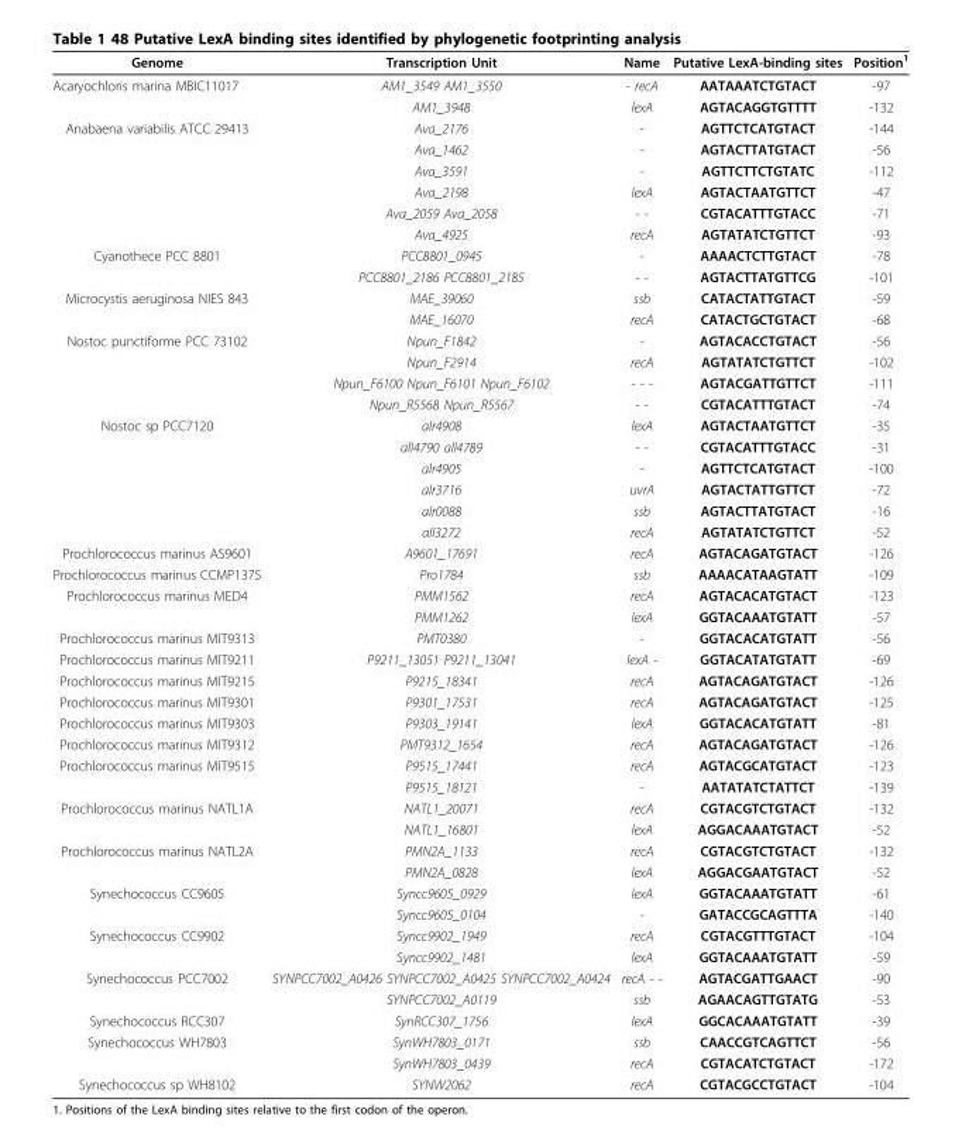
<table><thead><tr><td>Genome</td><td>Transcription Unit</td><td>Name</td><td>Putative LexA-binding sites</td><td>Position<sup>1</sup></td></tr></thead><tbody><tr><td rowspan="2">Acaryochloris marina MBIC11017</td><td>AM1_3549 AM1_3550</td><td>- recA</td><td>AATAAATCTGTACT</td><td>-97</td></tr><tr><td>AM1_3948</td><td>lexA</td><td>AGTACAGGTGTTTT</td><td>-132</td></tr><tr><td rowspan="6">Anabaena variabilis ATCC 29413</td><td>Ava_2176</td><td>-</td><td>AGTTCTCATGTACT</td><td>-144</td></tr><tr><td>Ava_1462</td><td>-</td><td>AGTACTTATGTACT</td><td>-56</td></tr><tr><td>Ava_3591</td><td>-</td><td>AGTTCTTCTGTATC</td><td>-112</td></tr><tr><td>Ava_2198</td><td>lexA</td><td>AGTACTAATGTTCT</td><td>-47</td></tr><tr><td>Ava_2059 Ava_2058</td><td>- -</td><td>CGTACATTTGTACC</td><td>-71</td></tr><tr><td>Ava_4925</td><td>recA</td><td>AGTATATCTGTTCT</td><td>-93</td></tr><tr><td rowspan="2">Cyanothece PCC 8801</td><td>PCC8801_0945</td><td>-</td><td>AAAACTCTTGTACT</td><td>-78</td></tr><tr><td>PCC8801_2186 PCC8801_2185</td><td>- -</td><td>AGTACTTATGTTCG</td><td>-101</td></tr><tr><td rowspan="2">Microcystis aeruginosa NIES 843</td><td>MAE_39060</td><td>ssb</td><td>CATACTATTGTACT</td><td>-59</td></tr><tr><td>MAE_16070</td><td>recA</td><td>CATACTGCTGTACT</td><td>-68</td></tr><tr><td rowspan="4">Nostoc punctiforme PCC 73102</td><td>Npun_F1842</td><td>-</td><td>AGTACACCTGTACT</td><td>-56</td></tr><tr><td>Npun_F2914</td><td>recA</td><td>AGTATATCTGTTCT</td><td>-102</td></tr><tr><td>Npun_F6100 Npun_F6101 Npun_F6102</td><td>- - -</td><td>AGTACGATTGTTCT</td><td>-111</td></tr><tr><td>Npun_R5568 Npun_R5567</td><td>- -</td><td>CGTACATTTGTACT</td><td>-74</td></tr><tr><td rowspan="6">Nostoc sp PCC7120</td><td>alr4908</td><td>lexA</td><td>AGTACTAATGTTCT</td><td>-35</td></tr><tr><td>all4790 all4789</td><td>- -</td><td>CGTACATTTGTACC</td><td>-31</td></tr><tr><td>alr4905</td><td>-</td><td>AGTTCTCATGTACT</td><td>-100</td></tr><tr><td>alr3716</td><td>uvrA</td><td>AGTACTATTGTTCT</td><td>-72</td></tr><tr><td>alr0088</td><td>ssb</td><td>AGTACTTATGTACT</td><td>-16</td></tr><tr><td>all3272</td><td>recA</td><td>AGTATATCTGTTCT</td><td>-52</td></tr><tr><td>Prochlorococcus marinus AS9601</td><td>A9601_17691</td><td>recA</td><td>AGTACAGATGTACT</td><td>-126</td></tr><tr><td>Prochlorococcus marinus CCMP1375</td><td>Pro1784</td><td>ssb</td><td>AAAACATAAGTATT</td><td>-109</td></tr><tr><td rowspan="2">Prochlorococcus marinus MED4</td><td>PMM1562</td><td>recA</td><td>AGTACACATGTACT</td><td>-123</td></tr><tr><td>PMM1262</td><td>lexA</td><td>GGTACAAATGTATT</td><td>-57</td></tr><tr><td>Prochlorococcus marinus MIT9313</td><td>PMT0380</td><td>-</td><td>GGTACACATGTATT</td><td>-56</td></tr><tr><td>Prochlorococcus marinus MIT9211</td><td>P9211_13051 P9211_13041</td><td>lexA -</td><td>GGTACATATGTATT</td><td>-69</td></tr><tr><td>Prochlorococcus marinus MIT9215</td><td>P9215_18341</td><td>recA</td><td>AGTACAGATGTACT</td><td>-126</td></tr><tr><td>Prochlorococcus marinus MIT9301</td><td>P9301_17531</td><td>recA</td><td>AGTACAGATGTACT</td><td>-125</td></tr><tr><td>Prochlorococcus marinus MIT9303</td><td>P9303_19141</td><td>lexA</td><td>GGTACACATGTATT</td><td>-81</td></tr><tr><td>Prochlorococcus marinus MIT9312</td><td>PMT9312_1654</td><td>recA</td><td>AGTACAGATGTACT</td><td>-126</td></tr><tr><td rowspan="2">Prochlorococcus marinus MIT9515</td><td>P9515_17441</td><td>recA</td><td>AGTACGCATGTACT</td><td>-123</td></tr><tr><td>P9515_18121</td><td>-</td><td>AATATATCTATTCT</td><td>-139</td></tr><tr><td rowspan="2">Prochlorococcus marinus NATL1A</td><td>NATL1_20071</td><td>recA</td><td>CGTACGTCTGTACT</td><td>-132</td></tr><tr><td>NATL1_16801</td><td>lexA</td><td>AGGACAAATGTACT</td><td>-52</td></tr><tr><td rowspan="2">Prochlorococcus marinus NATL2A</td><td>PMN2A_1133</td><td>recA</td><td>CGTACGTCTGTACT</td><td>-132</td></tr><tr><td>PMN2A_0828</td><td>lexA</td><td>AGGACGAATGTACT</td><td>-52</td></tr><tr><td rowspan="2">Synechococcus CC9605</td><td>Syncc9605_0929</td><td>lexA</td><td>GGTACAAATGTATT</td><td>-61</td></tr><tr><td>Syncc9605_0104</td><td>-</td><td>GATACCGCAGTTTA</td><td>-140</td></tr><tr><td rowspan="2">Synechococcus CC9902</td><td>Syncc9902_1949</td><td>recA</td><td>CGTACGTTTGTACT</td><td>-104</td></tr><tr><td>Syncc9902_1481</td><td>lexA</td><td>GGTACAAATGTATT</td><td>-59</td></tr><tr><td rowspan="2">Synechococcus PCC7002</td><td>SYNPCC7002_A0426 SYNPCC7002_A0425 SYNPCC7002_A0424</td><td>recA - -</td><td>AGTACGATTGAACT</td><td>-90</td></tr><tr><td>SYNPCC7002_A0119</td><td>ssb</td><td>AGAACAGTTGTATG</td><td>-53</td></tr><tr><td>Synechococcus RCC307</td><td>SynRCC307_1756</td><td>lexA</td><td>GGCACAAATGTATT</td><td>-39</td></tr><tr><td rowspan="2">Synechococcus WH7803</td><td>SynWH7803_0171</td><td>ssb</td><td>CAACCGTCAGTTCT</td><td>-56</td></tr><tr><td>SynWH7803_0439</td><td>recA</td><td>CGTACATCTGTACT</td><td>-172</td></tr><tr><td>Synechococcus sp WH8102</td><td>SYNW2062</td><td>recA</td><td>CGTACGCCTGTACT</td><td>-104</td></tr></tbody></table>